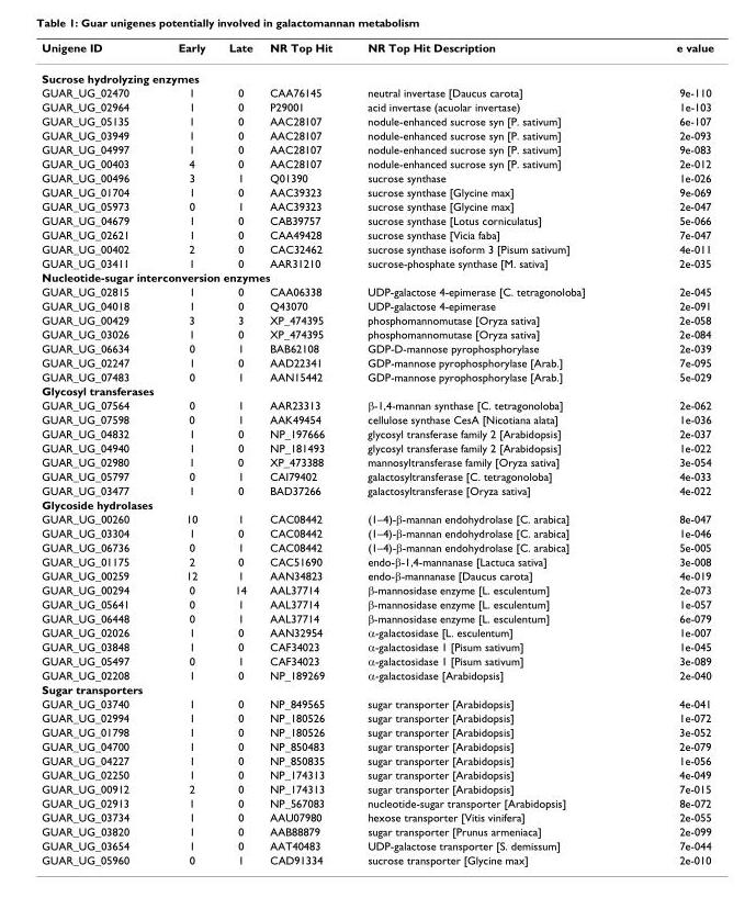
<table><thead><tr><td>Unigene ID</td><td>Early</td><td>Late</td><td>NR Top Hit</td><td>NR Top Hit Description</td><td>e value</td></tr></thead><tbody><tr><td colspan="6">Sucrose hydrolyzing enzymes</td></tr><tr><td>GUAR_UG_02470</td><td>1</td><td>0</td><td>CAA76145</td><td>neutral invertase [Daucus carota]</td><td>9e-110</td></tr><tr><td>GUAR_UG_02964</td><td>1</td><td>0</td><td>P29001</td><td>acid invertase (acuolar invertase)</td><td>1e-103</td></tr><tr><td>GUAR_UG_05135</td><td>1</td><td>0</td><td>AAC28107</td><td>nodule-enhanced sucrose syn [P. sativum]</td><td>6e-107</td></tr><tr><td>GUAR_UG_03949</td><td>1</td><td>0</td><td>AAC28107</td><td>nodule-enhanced sucrose syn [P. sativum]</td><td>2e-093</td></tr><tr><td>GUAR_UG_04997</td><td>1</td><td>0</td><td>AAC28107</td><td>nodule-enhanced sucrose syn [P. sativum]</td><td>9e-083</td></tr><tr><td>GUAR_UG_00403</td><td>4</td><td>0</td><td>AAC28107</td><td>nodule-enhanced sucrose syn [P. sativum]</td><td>2e-012</td></tr><tr><td>GUAR_UG_00496</td><td>3</td><td>1</td><td>Q01390</td><td>sucrose synthase</td><td>1e-026</td></tr><tr><td>GUAR_UG_01704</td><td>1</td><td>0</td><td>AAC39323</td><td>sucrose synthase [Glycine max]</td><td>9e-069</td></tr><tr><td>GUAR_UG_05973</td><td>0</td><td>1</td><td>AAC39323</td><td>sucrose synthase [Glycine max]</td><td>2e-047</td></tr><tr><td>GUAR_UG_04679</td><td>1</td><td>0</td><td>CAB39757</td><td>sucrose synthase [Lotus corniculatus]</td><td>5e-066</td></tr><tr><td>GUAR_UG_02621</td><td>1</td><td>0</td><td>CAA49428</td><td>sucrose synthase [Vicia faba]</td><td>7e-047</td></tr><tr><td>GUAR_UG_00402</td><td>2</td><td>0</td><td>CAC32462</td><td>sucrose synthase isoform 3 [Pisum sativum]</td><td>4e-011</td></tr><tr><td>GUAR_UG_03411</td><td>1</td><td>0</td><td>AAR31210</td><td>sucrose-phosphate synthase [M. sativa]</td><td>2e-035</td></tr><tr><td colspan="6">Nucleotide-sugar interconversion enzymes</td></tr><tr><td>GUAR_UG_02815</td><td>1</td><td>0</td><td>CAA06338</td><td>UDP-galactose 4-epimerase [C. tetragonoloba]</td><td>2e-045</td></tr><tr><td>GUAR_UG_04018</td><td>1</td><td>0</td><td>Q43070</td><td>UDP-galactose 4-epimerase</td><td>2e-091</td></tr><tr><td>GUAR_UG_00429</td><td>3</td><td>3</td><td>XP_474395</td><td>phosphomannomutase [Oryza sativa]</td><td>2e-058</td></tr><tr><td>GUAR_UG_03026</td><td>1</td><td>0</td><td>XP_474395</td><td>phosphomannomutase [Oryza sativa]</td><td>2e-084</td></tr><tr><td>GUAR_UG_06634</td><td>0</td><td>1</td><td>BAB62108</td><td>GDP-D-mannose pyrophosphorylase</td><td>2e-039</td></tr><tr><td>GUAR_UG_02247</td><td>1</td><td>0</td><td>AAD22341</td><td>GDP-mannose pyrophosphorylase [Arab.]</td><td>7e-095</td></tr><tr><td>GUAR_UG_07483</td><td>0</td><td>1</td><td>AAN15442</td><td>GDP-mannose pyrophosphorylase [Arab.]</td><td>5e-029</td></tr><tr><td colspan="6">Glycosyl transferases</td></tr><tr><td>GUAR_UG_07564</td><td>0</td><td>1</td><td>AAR23313</td><td>β-1,4-mannan synthase [C. tetragonoloba]</td><td>2e-062</td></tr><tr><td>GUAR_UG_07598</td><td>0</td><td>1</td><td>AAK49454</td><td>cellulose synthase CesA [Nicotiana alata]</td><td>1e-036</td></tr><tr><td>GUAR_UG_04832</td><td>1</td><td>0</td><td>NP_197666</td><td>glycosyl transferase family 2 [Arabidopsis]</td><td>2e-037</td></tr><tr><td>GUAR_UG_04940</td><td>1</td><td>0</td><td>NP_181493</td><td>glycosyl transferase family 2 [Arabidopsis]</td><td>1e-022</td></tr><tr><td>GUAR_UG_02980</td><td>1</td><td>0</td><td>XP_473388</td><td>mannosyltransferase family [Oryza sativa]</td><td>3e-054</td></tr><tr><td>GUAR_UG_05797</td><td>0</td><td>1</td><td>CAI79402</td><td>galactosyltransferase [C. tetragonoloba]</td><td>4e-033</td></tr><tr><td>GUAR_UG_03477</td><td>1</td><td>0</td><td>BAD37266</td><td>galactosyltransferase [Oryza sativa]</td><td>4e-022</td></tr><tr><td colspan="6">Glycoside hydrolases</td></tr><tr><td>GUAR_UG_00260</td><td>10</td><td>1</td><td>CAC08442</td><td>(1–4)-β-mannan endohydrolase [C. arabica]</td><td>8e-047</td></tr><tr><td>GUAR_UG_03304</td><td>1</td><td>0</td><td>CAC08442</td><td>(1–4)-β-mannan endohydrolase [C. arabica]</td><td>1e-046</td></tr><tr><td>GUAR_UG_06736</td><td>0</td><td>1</td><td>CAC08442</td><td>(1–4)-β-mannan endohydrolase [C. arabica]</td><td>5e-005</td></tr><tr><td>GUAR_UG_01175</td><td>2</td><td>0</td><td>CAC51690</td><td>endo-β-1,4-mannanase [Lactuca sativa]</td><td>3e-008</td></tr><tr><td>GUAR_UG_00259</td><td>12</td><td>1</td><td>AAN34823</td><td>endo-β-mannanase [Daucus carota]</td><td>4e-019</td></tr><tr><td>GUAR_UG_00294</td><td>0</td><td>14</td><td>AAL37714</td><td>β-mannosidase enzyme [L. esculentum]</td><td>2e-073</td></tr><tr><td>GUAR_UG_05641</td><td>0</td><td>1</td><td>AAL37714</td><td>β-mannosidase enzyme [L. esculentum]</td><td>1e-057</td></tr><tr><td>GUAR_UG_06448</td><td>0</td><td>1</td><td>AAL37714</td><td>β-mannosidase enzyme [L. esculentum]</td><td>6e-079</td></tr><tr><td>GUAR_UG_02026</td><td>1</td><td>0</td><td>AAN32954</td><td>α-galactosidase [L. esculentum]</td><td>1e-007</td></tr><tr><td>GUAR_UG_03848</td><td>1</td><td>0</td><td>CAF34023</td><td>α-galactosidase 1 [Pisum sativum]</td><td>1e-045</td></tr><tr><td>GUAR_UG_05497</td><td>0</td><td>1</td><td>CAF34023</td><td>α-galactosidase 1 [Pisum sativum]</td><td>3e-089</td></tr><tr><td>GUAR_UG_02208</td><td>1</td><td>0</td><td>NP_189269</td><td>α-galactosidase [Arabidopsis]</td><td>2e-040</td></tr><tr><td colspan="6">Sugar transporters</td></tr><tr><td>GUAR_UG_03740</td><td>1</td><td>0</td><td>NP_849565</td><td>sugar transporter [Arabidopsis]</td><td>4e-041</td></tr><tr><td>GUAR_UG_02994</td><td>1</td><td>0</td><td>NP_180526</td><td>sugar transporter [Arabidopsis]</td><td>1e-072</td></tr><tr><td>GUAR_UG_01798</td><td>1</td><td>0</td><td>NP_180526</td><td>sugar transporter [Arabidopsis]</td><td>3e-052</td></tr><tr><td>GUAR_UG_04700</td><td>1</td><td>0</td><td>NP_850483</td><td>sugar transporter [Arabidopsis]</td><td>2e-079</td></tr><tr><td>GUAR_UG_04227</td><td>1</td><td>0</td><td>NP_850835</td><td>sugar transporter [Arabidopsis]</td><td>1e-056</td></tr><tr><td>GUAR_UG_02250</td><td>1</td><td>0</td><td>NP_174313</td><td>sugar transporter [Arabidopsis]</td><td>4e-049</td></tr><tr><td>GUAR_UG_00912</td><td>2</td><td>0</td><td>NP_174313</td><td>sugar transporter [Arabidopsis]</td><td>7e-015</td></tr><tr><td>GUAR_UG_02913</td><td>1</td><td>0</td><td>NP_567083</td><td>nucleotide-sugar transporter [Arabidopsis]</td><td>8e-072</td></tr><tr><td>GUAR_UG_03734</td><td>1</td><td>0</td><td>AAU07980</td><td>hexose transporter [Vitis vinifera]</td><td>2e-055</td></tr><tr><td>GUAR_UG_03820</td><td>1</td><td>0</td><td>AAB88879</td><td>sugar transporter [Prunus armeniaca]</td><td>2e-099</td></tr><tr><td>GUAR_UG_03654</td><td>1</td><td>0</td><td>AAT40483</td><td>UDP-galactose transporter [S. demissum]</td><td>7e-044</td></tr><tr><td>GUAR_UG_05960</td><td>0</td><td>1</td><td>CAD91334</td><td>sucrose transporter [Glycine max]</td><td>2e-010</td></tr></tbody></table>